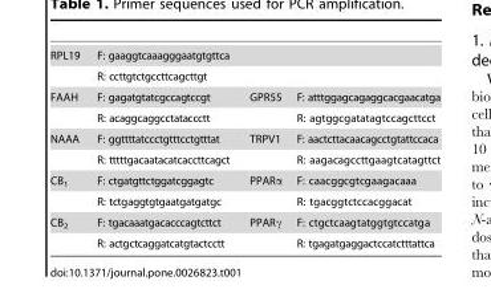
<table><tbody><tr><td rowspan="2">RPL19</td><td colspan="3">F: gaaggtcaaagggaatgtgttca</td></tr><tr><td colspan="3">R: ccttgtctgccttcagcttgt</td></tr><tr><td rowspan="2">FAAH</td><td>F: gagatgtatcgccagtccgt</td><td>GPR55</td><td>F: atttggagcagaggcacgaacatga</td></tr><tr><td>R: acaggcaggcctataccctt</td><td></td><td>R: agtggcgatatagtccagcttcct</td></tr><tr><td rowspan="2">NAAA</td><td>F: ggttttatccctgtttcctgtttat</td><td>TRPV1</td><td>F: aactcttacaacagcctgtattccaca</td></tr><tr><td>R: tttttgacaatacatcaccttcagct</td><td></td><td>R: aagacagccttgaagtcatagttct</td></tr><tr><td rowspan="2">CB<sub>1</sub></td><td>F: ctgatgttctggatcggagtc</td><td>PPARα</td><td>F: caacggcgtcgaagacaaa</td></tr><tr><td>R: tctgaggtgtgaatgatgatgc</td><td></td><td>R: tgacggtctccacggacat</td></tr><tr><td rowspan="2">CB<sub>2</sub></td><td>F: tgacaaatgacacccagtcttct</td><td>PPARγ</td><td>F: ctgctcaagtatggtgtccatga</td></tr><tr><td>R: actgctcaggatcatgtactcctt</td><td></td><td>R: tgagatgaggactccatctttattca</td></tr></tbody></table>